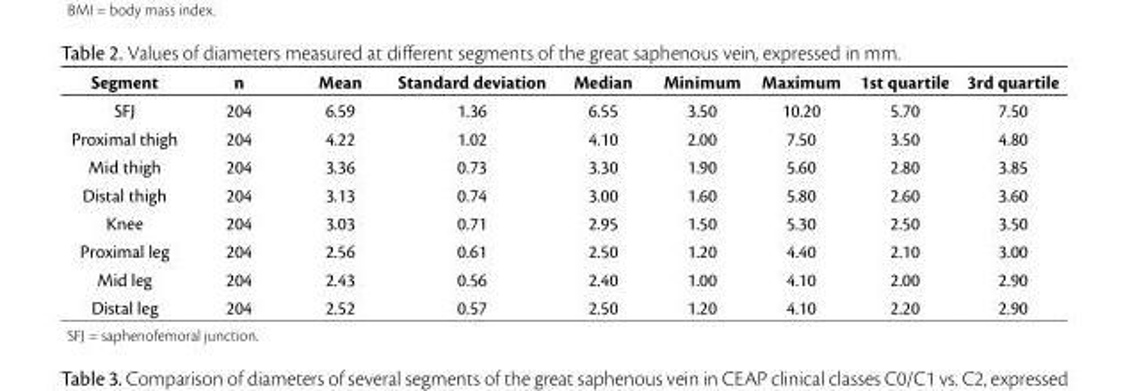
<table><thead><tr><td>Segment</td><td>n</td><td>Mean</td><td>Standard deviation</td><td>Median</td><td>Minimum</td><td>Maximum</td><td>1st quartile</td><td>3rd quartile</td></tr></thead><tbody><tr><td>SFJ</td><td>204</td><td>6.59</td><td>1.36</td><td>6.55</td><td>3.50</td><td>10.20</td><td>5.70</td><td>7.50</td></tr><tr><td>Proximal thigh</td><td>204</td><td>4.22</td><td>1.02</td><td>4.10</td><td>2.00</td><td>7.50</td><td>3.50</td><td>4.80</td></tr><tr><td>Mid thigh</td><td>204</td><td>3.36</td><td>0.73</td><td>3.30</td><td>1.90</td><td>5.60</td><td>2.80</td><td>3.85</td></tr><tr><td>Distal thigh</td><td>204</td><td>3.13</td><td>0.74</td><td>3.00</td><td>1.60</td><td>5.80</td><td>2.60</td><td>3.60</td></tr><tr><td>Knee</td><td>204</td><td>3.03</td><td>0.71</td><td>2.95</td><td>1.50</td><td>5.30</td><td>2.50</td><td>3.50</td></tr><tr><td>Proximal leg</td><td>204</td><td>2.56</td><td>0.61</td><td>2.50</td><td>1.20</td><td>4.40</td><td>2.10</td><td>3.00</td></tr><tr><td>Mid leg</td><td>204</td><td>2.43</td><td>0.56</td><td>2.40</td><td>1.00</td><td>4.10</td><td>2.00</td><td>2.90</td></tr><tr><td>Distal leg</td><td>204</td><td>2.52</td><td>0.57</td><td>2.50</td><td>1.20</td><td>4.10</td><td>2.20</td><td>2.90</td></tr></tbody></table>